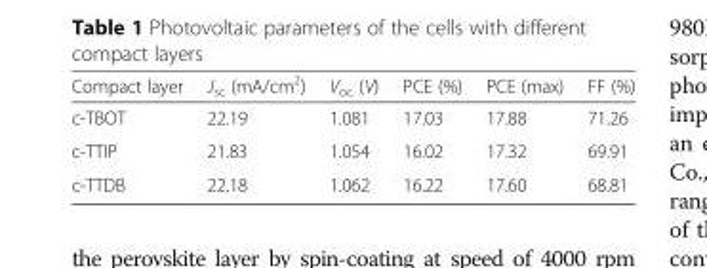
<table><thead><tr><td>Compact layer</td><td>J<sub>sc</sub> (mA/cm<sup>2</sup>)</td><td>V<sub>oc</sub> (V)</td><td>PCE (%)</td><td>PCE (max)</td><td>FF (%)</td></tr></thead><tbody><tr><td>c-TBOT</td><td>22.19</td><td>1.081</td><td>17.03</td><td>17.88</td><td>71.26</td></tr><tr><td>c-TTIP</td><td>21.83</td><td>1.054</td><td>16.02</td><td>17.32</td><td>69.91</td></tr><tr><td>c-TTDB</td><td>22.18</td><td>1.062</td><td>16.22</td><td>17.60</td><td>68.81</td></tr></tbody></table>